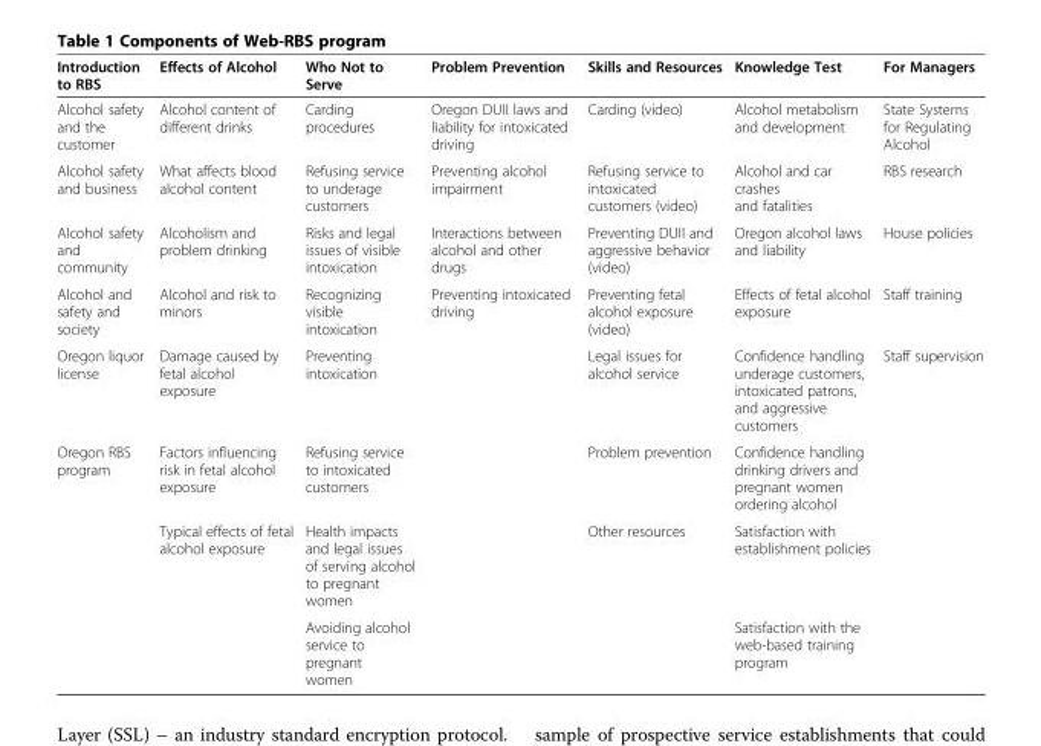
<table><thead><tr><td>Introduction to RBS</td><td>Effects of Alcohol</td><td>Who Not to Serve</td><td>Problem Prevention</td><td>Skills and Resources</td><td>Knowledge Test</td><td>For Managers</td></tr></thead><tbody><tr><td>Alcohol safety and the customer</td><td>Alcohol content of different drinks</td><td>Carding procedures</td><td>Oregon DUII laws and liability for intoxicated driving</td><td>Carding (video)</td><td>Alcohol metabolism and development</td><td>State Systems for Regulating Alcohol</td></tr><tr><td>Alcohol safety and business</td><td>What affects blood alcohol content</td><td>Refusing service to underage customers</td><td>Preventing alcohol impairment</td><td>Refusing service to intoxicated customers (video)</td><td>Alcohol and car crashes and fatalities</td><td>RBS research</td></tr><tr><td>Alcohol safety and community</td><td>Alcoholism and problem drinking</td><td>Risks and legal issues of visible intoxication</td><td>Interactions between alcohol and other drugs</td><td>Preventing DUII and aggressive behavior (video)</td><td>Oregon alcohol laws and liability</td><td>House policies</td></tr><tr><td>Alcohol and safety and society</td><td>Alcohol and risk to minors</td><td>Recognizing visible intoxication</td><td>Preventing intoxicated driving</td><td>Preventing fetal alcohol exposure (video)</td><td>Effects of fetal alcohol exposure</td><td>Staff training</td></tr><tr><td>Oregon liquor license</td><td>Damage caused by fetal alcohol exposure</td><td>Preventing intoxication</td><td></td><td>Legal issues for alcohol service</td><td>Confidence handling underage customers, intoxicated patrons, and aggressive customers</td><td>Staff supervision</td></tr><tr><td rowspan="3">Oregon RBS program</td><td>Factors influencing risk in fetal alcohol exposure</td><td>Refusing service to intoxicated customers</td><td></td><td>Problem prevention</td><td>Confidence handling drinking drivers and pregnant women ordering alcohol</td><td></td></tr><tr><td>Typical effects of fetal alcohol exposure</td><td>Health impacts and legal issues of serving alcohol to pregnant women</td><td></td><td>Other resources</td><td>Satisfaction with establishment policies</td><td></td></tr><tr><td></td><td>Avoiding alcohol service to pregnant women</td><td></td><td></td><td>Satisfaction with the web-based training program</td><td></td></tr></tbody></table>